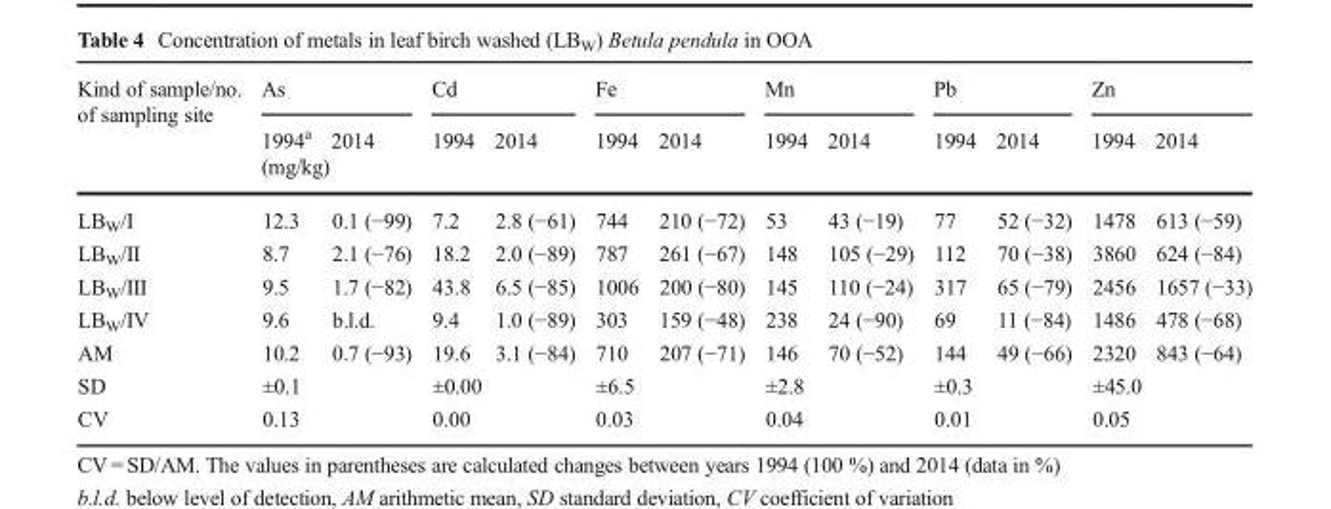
<table><thead><tr><td rowspan="3">Kind of sample/no. of sampling site</td><td colspan="2">As</td><td colspan="2">Cd</td><td colspan="2">Fe</td><td colspan="2">Mn</td><td colspan="2">Pb</td><td colspan="2">Zn</td></tr><tr><td>1994<sup>a</sup></td><td>2014</td><td>1994</td><td>2014</td><td>1994</td><td>2014</td><td>1994</td><td>2014</td><td>1994</td><td>2014</td><td>1994</td><td>2014</td></tr><tr><td colspan="12">(mg/kg)</td></tr></thead><tbody><tr><td>LB<sub>W</sub>/I</td><td>12.3</td><td>0.1 (−99)</td><td>7.2</td><td>2.8 (−61)</td><td>744</td><td>210 (−72)</td><td>53</td><td>43 (−19)</td><td>77</td><td>52 (−32)</td><td>1478</td><td>613 (−59)</td></tr><tr><td>LB<sub>W</sub>/II</td><td>8.7</td><td>2.1 (−76)</td><td>18.2</td><td>2.0 (−89)</td><td>787</td><td>261 (−67)</td><td>148</td><td>105 (−29)</td><td>112</td><td>70 (−38)</td><td>3860</td><td>624 (−84)</td></tr><tr><td>LB<sub>W</sub>/III</td><td>9.5</td><td>1.7 (−82)</td><td>43.8</td><td>6.5 (−85)</td><td>1006</td><td>200 (−80)</td><td>145</td><td>110 (−24)</td><td>317</td><td>65 (−79)</td><td>2456</td><td>1657 (−33)</td></tr><tr><td>LB<sub>W</sub>/IV</td><td>9.6</td><td>b.l.d.</td><td>9.4</td><td>1.0 (−89)</td><td>303</td><td>159 (−48)</td><td>238</td><td>24 (−90)</td><td>69</td><td>11 (−84)</td><td>1486</td><td>478 (−68)</td></tr><tr><td>AM</td><td>10.2</td><td>0.7 (−93)</td><td>19.6</td><td>3.1 (−84)</td><td>710</td><td>207 (−71)</td><td>146</td><td>70 (−52)</td><td>144</td><td>49 (−66)</td><td>2320</td><td>843 (−64)</td></tr><tr><td>SD</td><td colspan="2">±0.1</td><td colspan="2">±0.00</td><td colspan="2">±6.5</td><td colspan="2">±2.8</td><td colspan="2">±0.3</td><td colspan="2">±45.0</td></tr><tr><td>CV</td><td colspan="2">0.13</td><td colspan="2">0.00</td><td colspan="2">0.03</td><td colspan="2">0.04</td><td colspan="2">0.01</td><td colspan="2">0.05</td></tr></tbody></table>